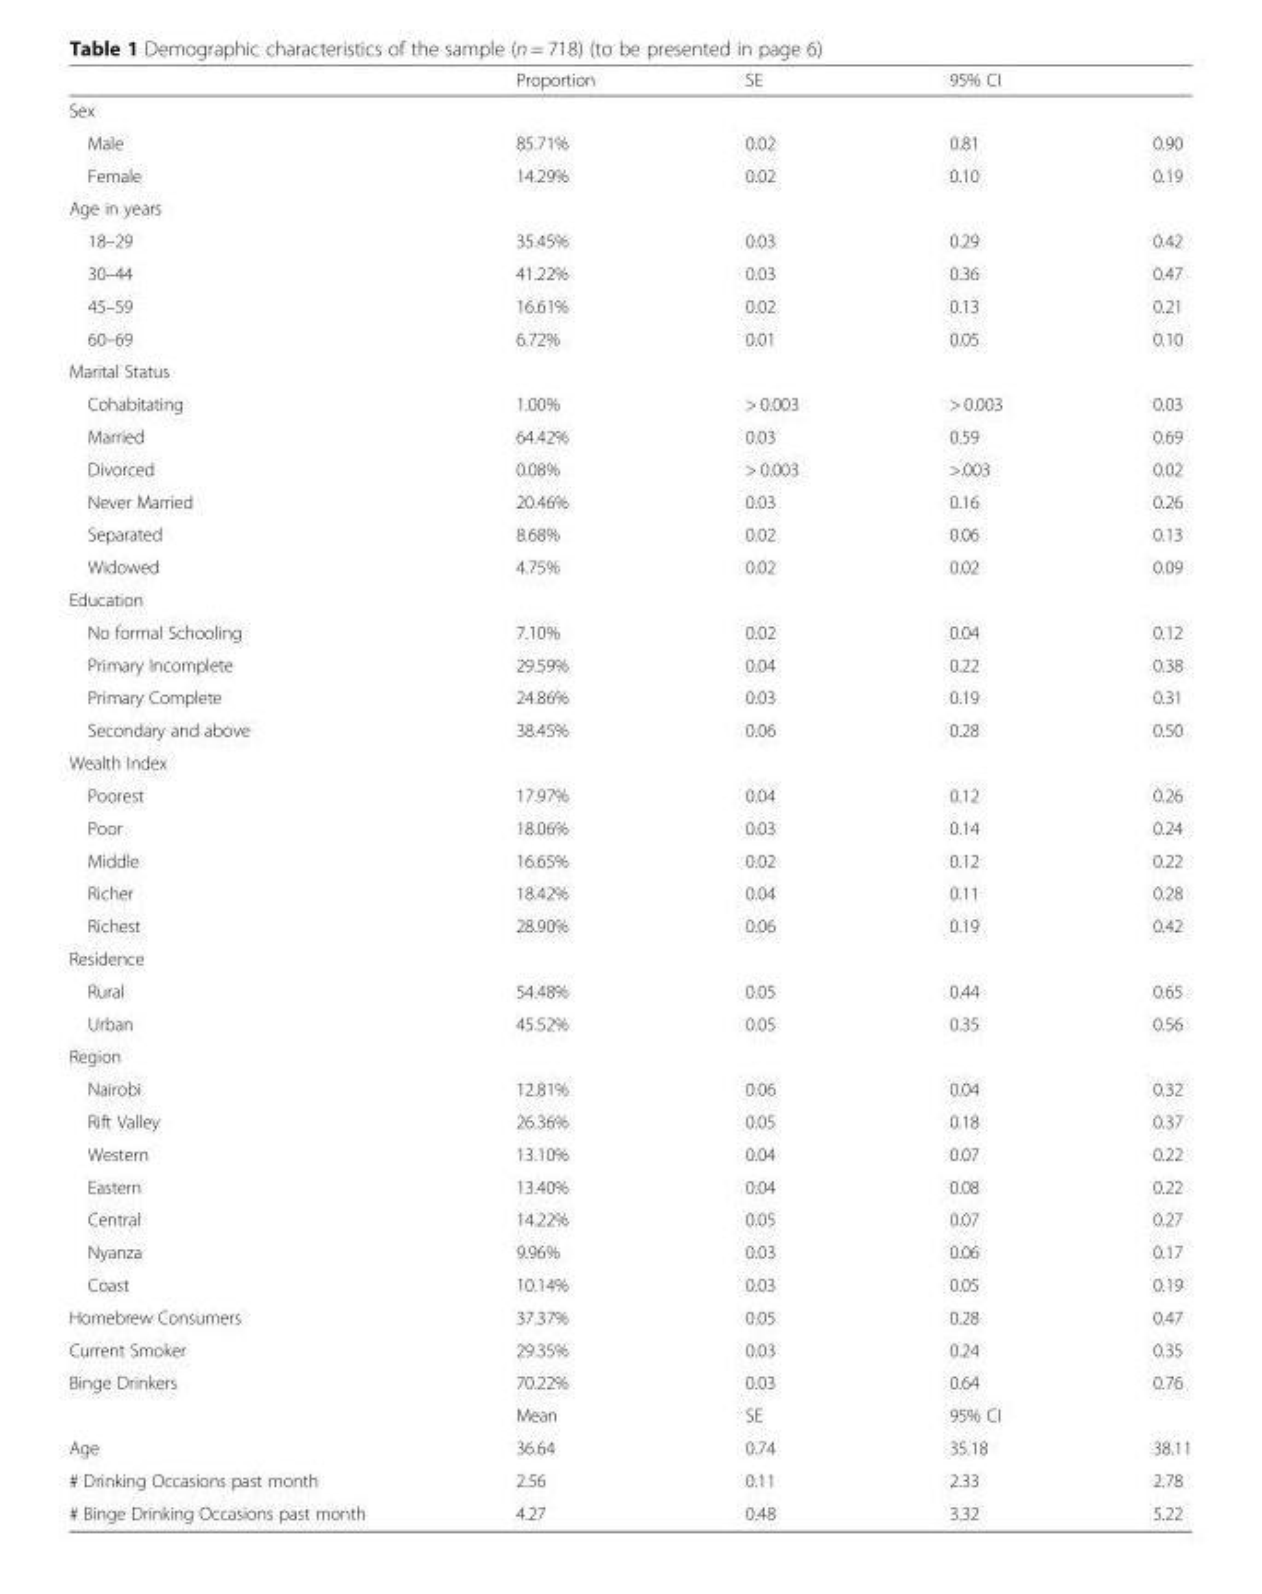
<table><thead><tr><td></td><td>Proportion</td><td>SE</td><td colspan="2">95% CI</td></tr><tr><td colspan="5">Sex</td></tr><tr><td>Male</td><td>85.71%</td><td>0.02</td><td>0.81</td><td>0.90</td></tr></thead><tbody><tr><td>Female</td><td>14.29%</td><td>0.02</td><td>0.10</td><td>0.19</td></tr><tr><td colspan="5">Age in years</td></tr><tr><td>18–29</td><td>35.45%</td><td>0.03</td><td>0.29</td><td>0.42</td></tr><tr><td>30–44</td><td>41.22%</td><td>0.03</td><td>0.36</td><td>0.47</td></tr><tr><td>45–59</td><td>16.61%</td><td>0.02</td><td>0.13</td><td>0.21</td></tr><tr><td>60–69</td><td>6.72%</td><td>0.01</td><td>0.05</td><td>0.10</td></tr><tr><td colspan="5">Marital Status</td></tr><tr><td>Cohabitating</td><td>1.00%</td><td>&gt; 0.003</td><td>&gt; 0.003</td><td>0.03</td></tr><tr><td>Married</td><td>64.42%</td><td>0.03</td><td>0.59</td><td>0.69</td></tr><tr><td>Divorced</td><td>0.08%</td><td>&gt; 0.003</td><td>&gt;.003</td><td>0.02</td></tr><tr><td>Never Married</td><td>20.46%</td><td>0.03</td><td>0.16</td><td>0.26</td></tr><tr><td>Separated</td><td>8.68%</td><td>0.02</td><td>0.06</td><td>0.13</td></tr><tr><td>Widowed</td><td>4.75%</td><td>0.02</td><td>0.02</td><td>0.09</td></tr><tr><td colspan="5">Education</td></tr><tr><td>No formal Schooling</td><td>7.10%</td><td>0.02</td><td>0.04</td><td>0.12</td></tr><tr><td>Primary Incomplete</td><td>29.59%</td><td>0.04</td><td>0.22</td><td>0.38</td></tr><tr><td>Primary Complete</td><td>24.86%</td><td>0.03</td><td>0.19</td><td>0.31</td></tr><tr><td>Secondary and above</td><td>38.45%</td><td>0.06</td><td>0.28</td><td>0.50</td></tr><tr><td colspan="5">Wealth Index</td></tr><tr><td>Poorest</td><td>17.97%</td><td>0.04</td><td>0.12</td><td>0.26</td></tr><tr><td>Poor</td><td>18.06%</td><td>0.03</td><td>0.14</td><td>0.24</td></tr><tr><td>Middle</td><td>16.65%</td><td>0.02</td><td>0.12</td><td>0.22</td></tr><tr><td>Richer</td><td>18.42%</td><td>0.04</td><td>0.11</td><td>0.28</td></tr><tr><td>Richest</td><td>28.90%</td><td>0.06</td><td>0.19</td><td>0.42</td></tr><tr><td colspan="5">Residence</td></tr><tr><td>Rural</td><td>54.48%</td><td>0.05</td><td>0.44</td><td>0.65</td></tr><tr><td>Urban</td><td>45.52%</td><td>0.05</td><td>0.35</td><td>0.56</td></tr><tr><td colspan="5">Region</td></tr><tr><td>Nairobi</td><td>12.81%</td><td>0.06</td><td>0.04</td><td>0.32</td></tr><tr><td>Rift Valley</td><td>26.36%</td><td>0.05</td><td>0.18</td><td>0.37</td></tr><tr><td>Western</td><td>13.10%</td><td>0.04</td><td>0.07</td><td>0.22</td></tr><tr><td>Eastern</td><td>13.40%</td><td>0.04</td><td>0.08</td><td>0.22</td></tr><tr><td>Central</td><td>14.22%</td><td>0.05</td><td>0.07</td><td>0.27</td></tr><tr><td>Nyanza</td><td>9.96%</td><td>0.03</td><td>0.06</td><td>0.17</td></tr><tr><td>Coast</td><td>10.14%</td><td>0.03</td><td>0.05</td><td>0.19</td></tr><tr><td>Homebrew Consumers</td><td>37.37%</td><td>0.05</td><td>0.28</td><td>0.47</td></tr><tr><td>Current Smoker</td><td>29.35%</td><td>0.03</td><td>0.24</td><td>0.35</td></tr><tr><td rowspan="2">Binge Drinkers</td><td>70.22%</td><td>0.03</td><td>0.64</td><td>0.76</td></tr><tr><td>Mean</td><td>SE</td><td colspan="2">95% CI</td></tr><tr><td>Age</td><td>36.64</td><td>0.74</td><td>35.18</td><td>38.11</td></tr><tr><td># Drinking Occasions past month</td><td>2.56</td><td>0.11</td><td>2.33</td><td>2.78</td></tr><tr><td># Binge Drinking Occasions past month</td><td>4.27</td><td>0.48</td><td>3.32</td><td>5.22</td></tr></tbody></table>